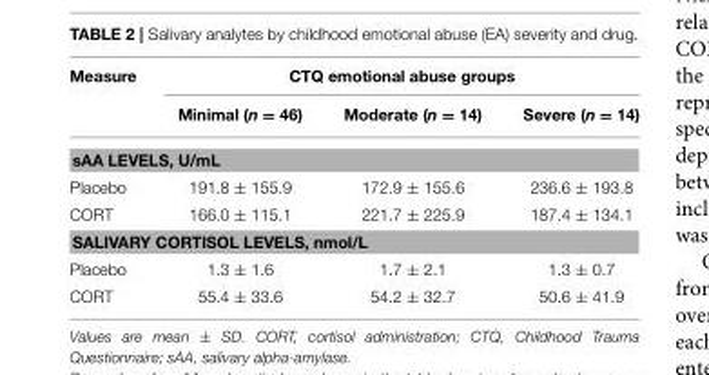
<table><thead><tr><td rowspan="2">Measure</td><td colspan="3">CTQ emotional abuse groups</td></tr><tr><td>Minimal (n = 46)</td><td>Moderate (n = 14)</td><td>Severe (n = 14)</td></tr></thead><tbody><tr><td colspan="4">sAA LEVELS, U/mL</td></tr><tr><td>Placebo</td><td>191.8 ± 155.9</td><td>172.9 ± 155.6</td><td>236.6 ± 193.8</td></tr><tr><td>CORT</td><td>166.0 ± 115.1</td><td>221.7 ± 225.9</td><td>187.4 ± 134.1</td></tr><tr><td colspan="4">SALIVARY CORTISOL LEVELS, nmol/L</td></tr><tr><td>Placebo</td><td>1.3 ± 1.6</td><td>1.7 ± 2.1</td><td>1.3 ± 0.7</td></tr><tr><td>CORT</td><td>55.4 ± 33.6</td><td>54.2 ± 32.7</td><td>50.6 ± 41.9</td></tr></tbody></table>